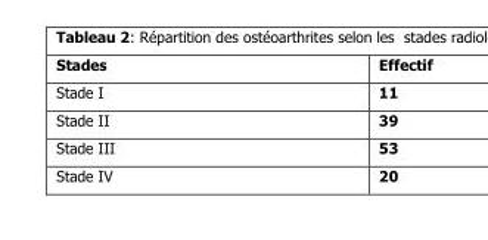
<table><thead><tr><td>Stades</td><td>Effectif</td></tr></thead><tbody><tr><td>Stade I</td><td>11</td></tr><tr><td>Stade II</td><td>39</td></tr><tr><td>Stade III</td><td>53</td></tr><tr><td>Stade IV</td><td>20</td></tr></tbody></table>